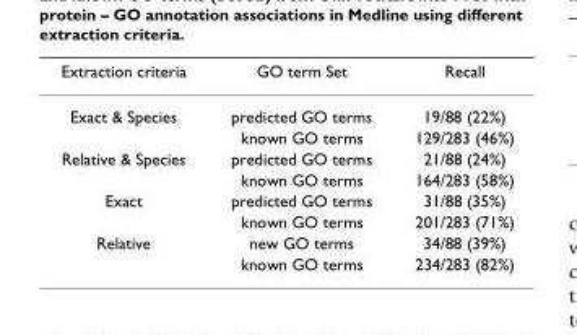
<table><thead><tr><td>Extraction criteria</td><td>GO term Set</td><td>Recall</td></tr></thead><tbody><tr><td rowspan="2">Exact &amp; Species</td><td>predicted GO terms</td><td>19/88 (22%)</td></tr><tr><td>known GO terms</td><td>129/283 (46%)</td></tr><tr><td rowspan="2">Relative &amp; Species</td><td>predicted GO terms</td><td>21/88 (24%)</td></tr><tr><td>known GO terms</td><td>164/283 (58%)</td></tr><tr><td rowspan="2">Exact</td><td>predicted GO terms</td><td>31/88 (35%)</td></tr><tr><td>known GO terms</td><td>201/283 (71%)</td></tr><tr><td rowspan="2">Relative</td><td>new GO terms</td><td>34/88 (39%)</td></tr><tr><td>known GO terms</td><td>234/283 (82%)</td></tr></tbody></table>